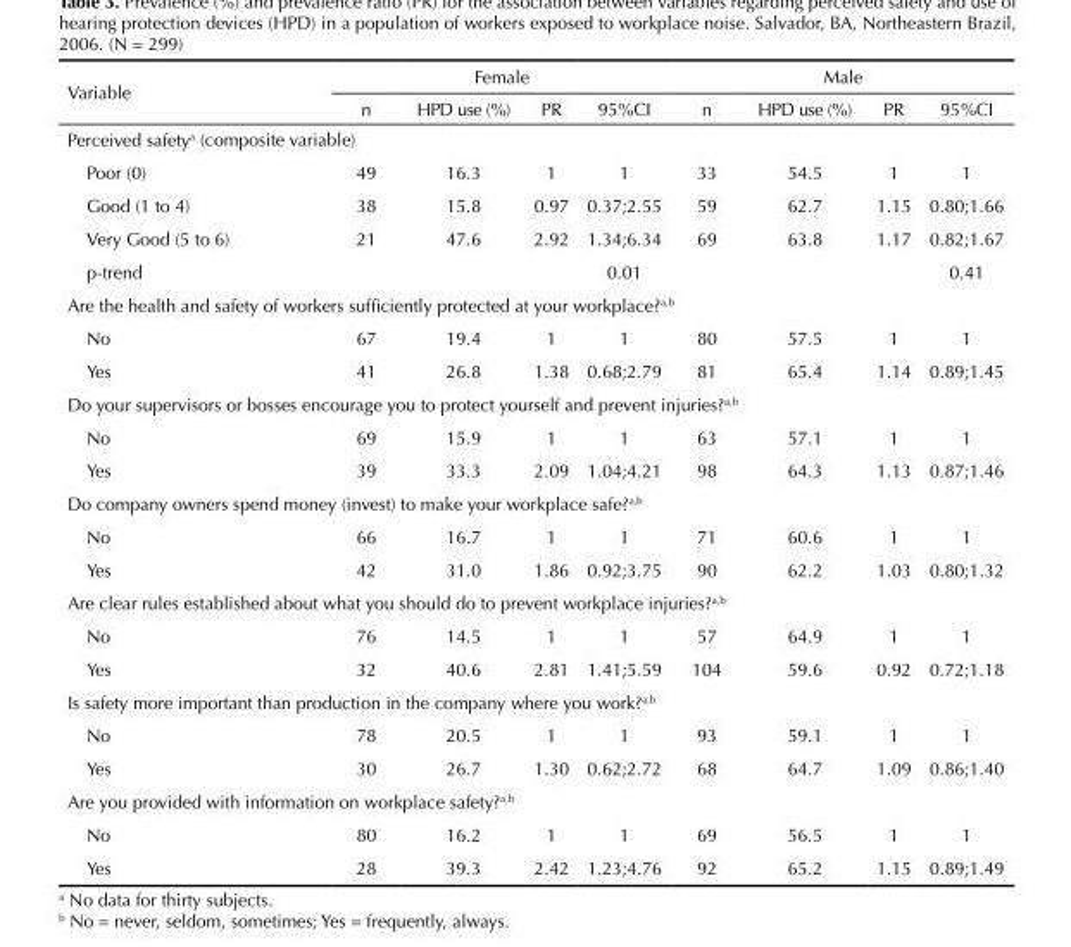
<table><thead><tr><td rowspan="2">Variable</td><td colspan="4">Female</td><td colspan="4">Male</td></tr><tr><td>n</td><td>HPD use (%)</td><td>PR</td><td>95%CI</td><td>n</td><td>HPD use (%)</td><td>PR</td><td>95%CI</td></tr></thead><tbody><tr><td colspan="9">Perceived safety<sup>a</sup> (composite variable)</td></tr><tr><td>Poor (0)</td><td>49</td><td>16.3</td><td>1</td><td>1</td><td>33</td><td>54.5</td><td>1</td><td>1</td></tr><tr><td>Good (1 to 4)</td><td>38</td><td>15.8</td><td>0.97</td><td>0.37;2.55</td><td>59</td><td>62.7</td><td>1.15</td><td>0.80;1.66</td></tr><tr><td>Very Good (5 to 6)</td><td>21</td><td>47.6</td><td>2.92</td><td>1.34;6.34</td><td>69</td><td>63.8</td><td>1.17</td><td>0.82;1.67</td></tr><tr><td>p-trend</td><td></td><td></td><td></td><td>0.01</td><td></td><td></td><td></td><td>0.41</td></tr><tr><td colspan="9">Are the health and safety of workers sufficiently protected at your workplace?<sup>a,b</sup></td></tr><tr><td>No</td><td>67</td><td>19.4</td><td>1</td><td>1</td><td>80</td><td>57.5</td><td>1</td><td>1</td></tr><tr><td>Yes</td><td>41</td><td>26.8</td><td>1.38</td><td>0.68;2.79</td><td>81</td><td>65.4</td><td>1.14</td><td>0.89;1.45</td></tr><tr><td colspan="9">Do your supervisors or bosses encourage you to protect yourself and prevent injuries?<sup>a,b</sup></td></tr><tr><td>No</td><td>69</td><td>15.9</td><td>1</td><td>1</td><td>63</td><td>57.1</td><td>1</td><td>1</td></tr><tr><td>Yes</td><td>39</td><td>33.3</td><td>2.09</td><td>1.04;4.21</td><td>98</td><td>64.3</td><td>1.13</td><td>0.87;1.46</td></tr><tr><td colspan="9">Do company owners spend money (invest) to make your workplace safe?<sup>a,b</sup></td></tr><tr><td>No</td><td>66</td><td>16.7</td><td>1</td><td>1</td><td>71</td><td>60.6</td><td>1</td><td>1</td></tr><tr><td>Yes</td><td>42</td><td>31.0</td><td>1.86</td><td>0.92;3.75</td><td>90</td><td>62.2</td><td>1.03</td><td>0.80;1.32</td></tr><tr><td colspan="9">Are clear rules established about what you should do to prevent workplace injuries?<sup>a,b</sup></td></tr><tr><td>No</td><td>76</td><td>14.5</td><td>1</td><td>1</td><td>57</td><td>64.9</td><td>1</td><td>1</td></tr><tr><td>Yes</td><td>32</td><td>40.6</td><td>2.81</td><td>1.41;5.59</td><td>104</td><td>59.6</td><td>0.92</td><td>0.72;1.18</td></tr><tr><td colspan="9">Is safety more important than production in the company where you work?<sup>a,b</sup></td></tr><tr><td>No</td><td>78</td><td>20.5</td><td>1</td><td>1</td><td>93</td><td>59.1</td><td>1</td><td>1</td></tr><tr><td>Yes</td><td>30</td><td>26.7</td><td>1.30</td><td>0.62;2.72</td><td>68</td><td>64.7</td><td>1.09</td><td>0.86;1.40</td></tr><tr><td colspan="9">Are you provided with information on workplace safety?<sup>a,b</sup></td></tr><tr><td>No</td><td>80</td><td>16.2</td><td>1</td><td>1</td><td>69</td><td>56.5</td><td>1</td><td>1</td></tr><tr><td>Yes</td><td>28</td><td>39.3</td><td>2.42</td><td>1.23;4.76</td><td>92</td><td>65.2</td><td>1.15</td><td>0.89;1.49</td></tr></tbody></table>